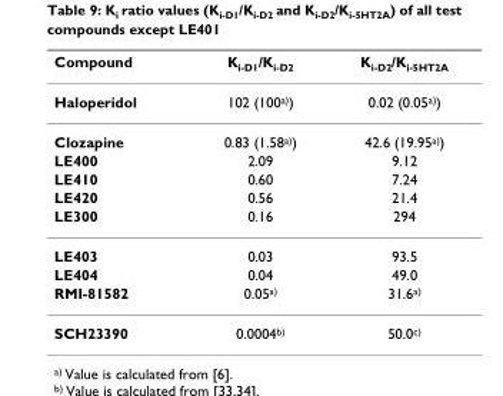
<table><thead><tr><td>Compound</td><td>K<sub>i-D1</sub>/K<sub>i-D2</sub></td><td>K<sub>i-D2</sub>/K<sub>i-5HT2A</sub></td></tr></thead><tbody><tr><td>Haloperidol</td><td>102 (100<sup>a)</sup>)</td><td>0.02 (0.05<sup>a)</sup>)</td></tr><tr><td>Clozapine</td><td>0.83 (1.58<sup>a)</sup>)</td><td>42.6 (19.95<sup>a)</sup>)</td></tr><tr><td>LE400</td><td>2.09</td><td>9.12</td></tr><tr><td>LE410</td><td>0.60</td><td>7.24</td></tr><tr><td>LE420</td><td>0.56</td><td>21.4</td></tr><tr><td>LE300</td><td>0.16</td><td>294</td></tr><tr><td>LE403</td><td>0.03</td><td>93.5</td></tr><tr><td>LE404</td><td>0.04</td><td>49.0</td></tr><tr><td>RMI-81582</td><td>0.05<sup>a)</sup></td><td>31.6<sup>a)</sup></td></tr><tr><td>SCH23390</td><td>0.0004<sup>b)</sup></td><td>50.0<sup>c)</sup></td></tr></tbody></table>